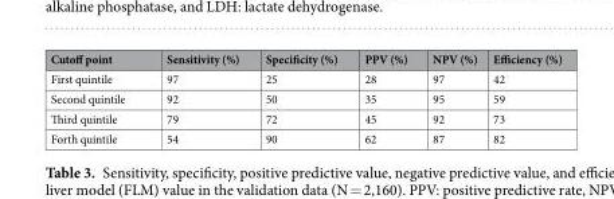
<table><thead><tr><td>Cutoff point</td><td>Sensitivity (%)</td><td>Specificity (%)</td><td>PPV (%)</td><td>NPV (%)</td><td>Efficiency (%)</td></tr></thead><tbody><tr><td>First quintile</td><td>97</td><td>25</td><td>28</td><td>97</td><td>42</td></tr><tr><td>Second quintile</td><td>92</td><td>50</td><td>35</td><td>95</td><td>59</td></tr><tr><td>Third quintile</td><td>79</td><td>72</td><td>45</td><td>92</td><td>73</td></tr><tr><td>Forth quintile</td><td>54</td><td>90</td><td>62</td><td>87</td><td>82</td></tr></tbody></table>